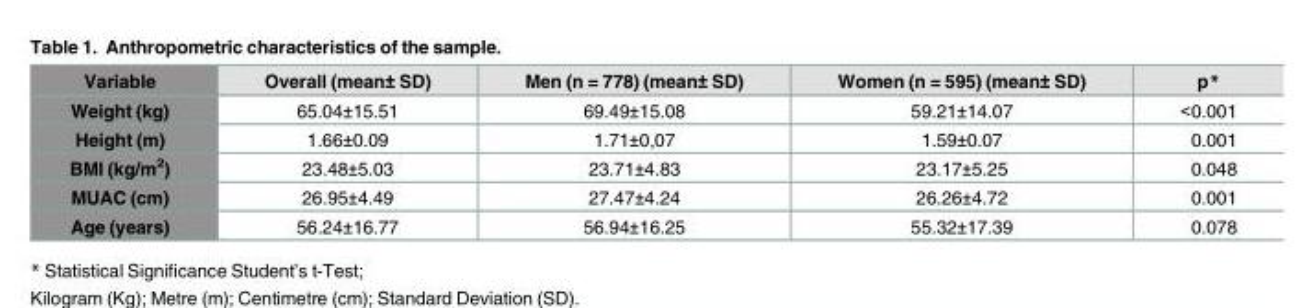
<table><thead><tr><td>Variable</td><td>Overall (mean± SD)</td><td>Men (n = 778) (mean± SD)</td><td>Women (n = 595) (mean± SD)</td><td>p*</td></tr></thead><tbody><tr><td>Weight (kg)</td><td>65.04±15.51</td><td>69.49±15.08</td><td>59.21±14.07</td><td>&lt;0.001</td></tr><tr><td>Height (m)</td><td>1.66±0.09</td><td>1.71±0,07</td><td>1.59±0.07</td><td>0.001</td></tr><tr><td>BMI (kg/m<sup>2</sup>)</td><td>23.48±5.03</td><td>23.71±4.83</td><td>23.17±5.25</td><td>0.048</td></tr><tr><td>MUAC (cm)</td><td>26.95±4.49</td><td>27.47±4.24</td><td>26.26±4.72</td><td>0.001</td></tr><tr><td>Age (years)</td><td>56.24±16.77</td><td>56.94±16.25</td><td>55.32±17.39</td><td>0.078</td></tr></tbody></table>